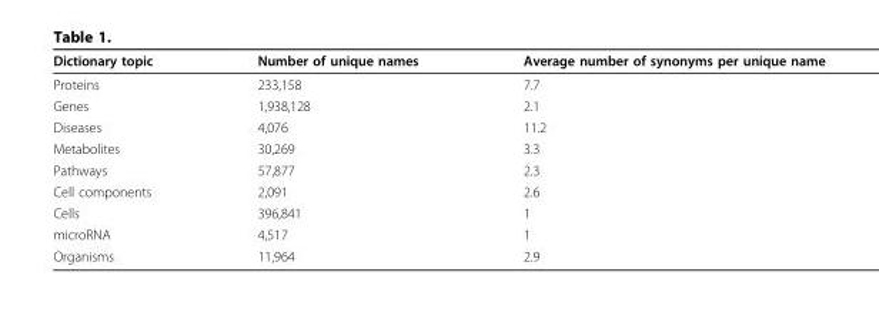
<table><thead><tr><td>Dictionary topic</td><td>Number of unique names</td><td>Average number of synonyms per unique name</td></tr></thead><tbody><tr><td>Proteins</td><td>233,158</td><td>7.7</td></tr><tr><td>Genes</td><td>1,938,128</td><td>2.1</td></tr><tr><td>Diseases</td><td>4,076</td><td>11.2</td></tr><tr><td>Metabolites</td><td>30,269</td><td>3.3</td></tr><tr><td>Pathways</td><td>57,877</td><td>2.3</td></tr><tr><td>Cell components</td><td>2,091</td><td>2.6</td></tr><tr><td>Cells</td><td>396,841</td><td>1</td></tr><tr><td>microRNA</td><td>4,517</td><td>1</td></tr><tr><td>Organisms</td><td>11,964</td><td>2.9</td></tr></tbody></table>